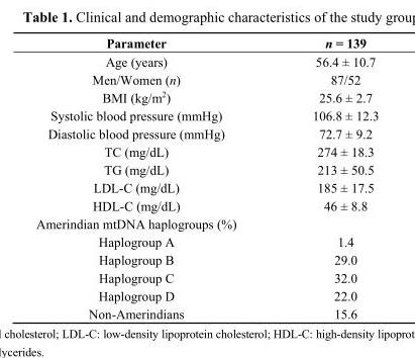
<table><thead><tr><td>Parameter</td><td>n = 139</td></tr></thead><tbody><tr><td>Age (years)</td><td>56.4 ± 10.7</td></tr><tr><td>Men/Women (n)</td><td>87/52</td></tr><tr><td>BMI (kg/m<sup>2</sup>)</td><td>25.6 ± 2.7</td></tr><tr><td>Systolic blood pressure (mmHg)</td><td>106.8 ± 12.3</td></tr><tr><td>Diastolic blood pressure (mmHg)</td><td>72.7 ± 9.2</td></tr><tr><td>TC (mg/dL)</td><td>274 ± 18.3</td></tr><tr><td>TG (mg/dL)</td><td>213 ± 50.5</td></tr><tr><td>LDL-C (mg/dL)</td><td>185 ± 17.5</td></tr><tr><td>HDL-C (mg/dL)</td><td>46 ± 8.8</td></tr><tr><td colspan="2">Amerindian mtDNA haplogroups (%)</td></tr><tr><td>Haplogroup A</td><td>1.4</td></tr><tr><td>Haplogroup B</td><td>29.0</td></tr><tr><td>Haplogroup C</td><td>32.0</td></tr><tr><td>Haplogroup D</td><td>22.0</td></tr><tr><td>Non-Amerindians</td><td>15.6</td></tr></tbody></table>